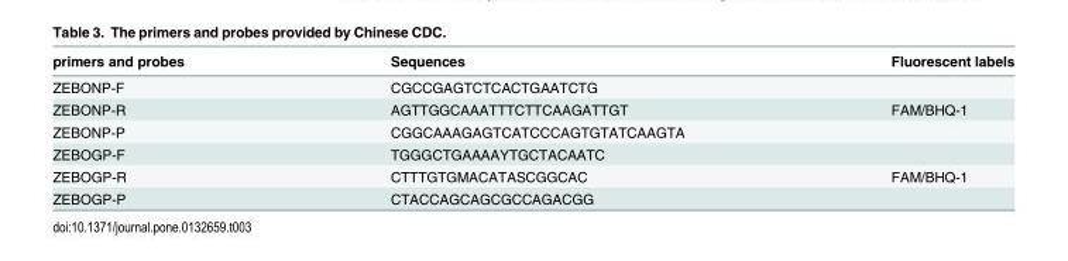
<table><thead><tr><td>primers and probes</td><td>Sequences</td><td>Fluorescent labels</td></tr></thead><tbody><tr><td>ZEBONP-F</td><td>CGCCGAGTCTCACTGAATCTG</td><td></td></tr><tr><td>ZEBONP-R</td><td>AGTTGGCAAATTTCTTCAAGATTGT</td><td>FAM/BHQ-1</td></tr><tr><td>ZEBONP-P</td><td>CGGCAAAGAGTCATCCCAGTGTATCAAGTA</td><td></td></tr><tr><td>ZEBOGP-F</td><td>TGGGCTGAAAAYTGCTACAATC</td><td></td></tr><tr><td>ZEBOGP-R</td><td>CTTTGTGMACATASCGGCAC</td><td>FAM/BHQ-1</td></tr><tr><td>ZEBOGP-P</td><td>CTACCAGCAGCGCCAGACGG</td><td></td></tr></tbody></table>